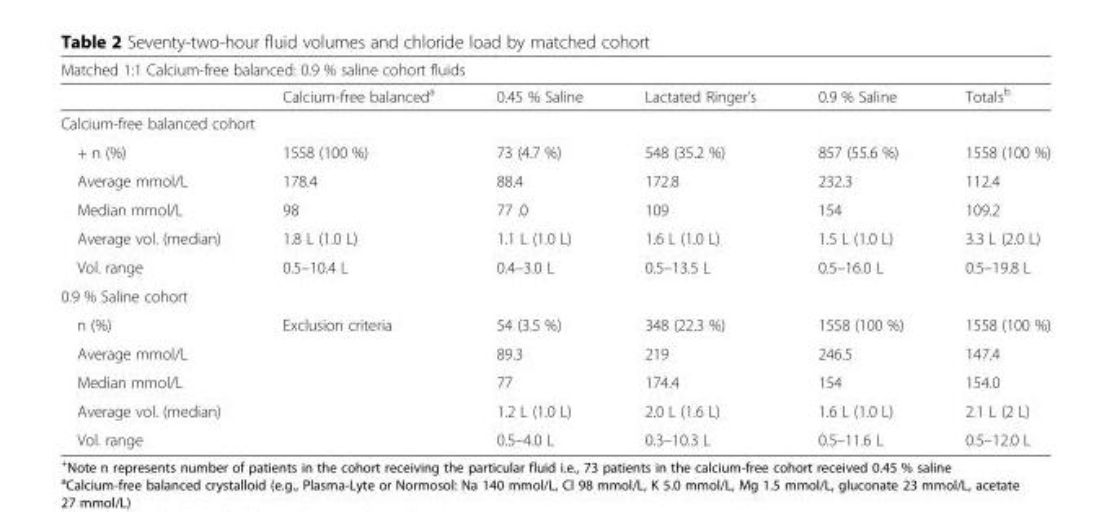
<table><thead><tr><td colspan="6">Matched 1:1 Calcium-free balanced: 0.9 % saline cohort fluids</td></tr><tr><td></td><td>Calcium-free balanced<sup>a</sup></td><td>0.45 % Saline</td><td>Lactated Ringer’s</td><td>0.9 % Saline</td><td>Totals<sup>b</sup></td></tr></thead><tbody><tr><td colspan="6">Calcium-free balanced cohort</td></tr><tr><td>+ n (%)</td><td>1558 (100 %)</td><td>73 (4.7 %)</td><td>548 (35.2 %)</td><td>857 (55.6 %)</td><td>1558 (100 %)</td></tr><tr><td>Average mmol/L</td><td>178.4</td><td>88.4</td><td>172.8</td><td>232.3</td><td>112.4</td></tr><tr><td>Median mmol/L</td><td>98</td><td>77 .0</td><td>109</td><td>154</td><td>109.2</td></tr><tr><td>Average vol. (median)</td><td>1.8 L (1.0 L)</td><td>1.1 L (1.0 L)</td><td>1.6 L (1.0 L)</td><td>1.5 L (1.0 L)</td><td>3.3 L (2.0 L)</td></tr><tr><td>Vol. range</td><td>0.5–10.4 L</td><td>0.4–3.0 L</td><td>0.5–13.5 L</td><td>0.5–16.0 L</td><td>0.5–19.8 L</td></tr><tr><td colspan="6">0.9 % Saline cohort</td></tr><tr><td>n (%)</td><td>Exclusion criteria</td><td>54 (3.5 %)</td><td>348 (22.3 %)</td><td>1558 (100 %)</td><td>1558 (100 %)</td></tr><tr><td>Average mmol/L</td><td></td><td>89.3</td><td>219</td><td>246.5</td><td>147.4</td></tr><tr><td>Median mmol/L</td><td></td><td>77</td><td>174.4</td><td>154</td><td>154.0</td></tr><tr><td>Average vol. (median)</td><td></td><td>1.2 L (1.0 L)</td><td>2.0 L (1.6 L)</td><td>1.6 L (1.0 L)</td><td>2.1 L (2 L)</td></tr><tr><td>Vol. range</td><td></td><td>0.5–4.0 L</td><td>0.3–10.3 L</td><td>0.5–11.6 L</td><td>0.5–12.0 L</td></tr></tbody></table>